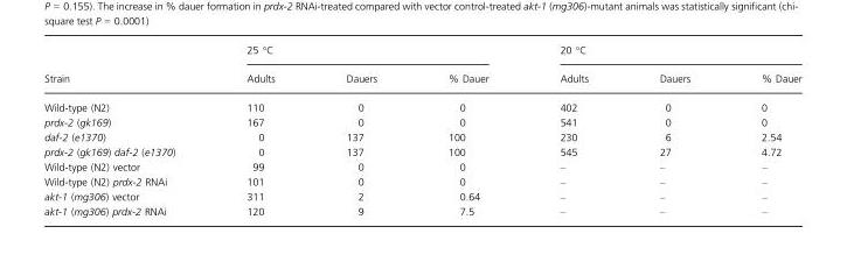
<table><thead><tr><td rowspan="2">Strain</td><td colspan="3">25 °C</td><td colspan="3">20 °C</td></tr><tr><td>Adults</td><td>Dauers</td><td>% Dauer</td><td>Adults</td><td>Dauers</td><td>% Dauer</td></tr></thead><tbody><tr><td>Wild-type (N2)</td><td>110</td><td>0</td><td>0</td><td>402</td><td>0</td><td>0</td></tr><tr><td>prdx-2 (gk169)</td><td>167</td><td>0</td><td>0</td><td>541</td><td>0</td><td>0</td></tr><tr><td>daf-2 (e1370)</td><td>0</td><td>137</td><td>100</td><td>230</td><td>6</td><td>2.54</td></tr><tr><td>prdx-2 (gk169) daf-2 (e1370)</td><td>0</td><td>137</td><td>100</td><td>545</td><td>27</td><td>4.72</td></tr><tr><td>Wild-type (N2) vector</td><td>99</td><td>0</td><td>0</td><td>–</td><td>–</td><td>–</td></tr><tr><td>Wild-type (N2) prdx-2 RNAi</td><td>101</td><td>0</td><td>0</td><td>–</td><td>–</td><td>–</td></tr><tr><td>akt-1 (mg306) vector</td><td>311</td><td>2</td><td>0.64</td><td>–</td><td>–</td><td>–</td></tr><tr><td>akt-1 (mg306) prdx-2 RNAi</td><td>120</td><td>9</td><td>7.5</td><td>–</td><td>–</td><td>–</td></tr></tbody></table>